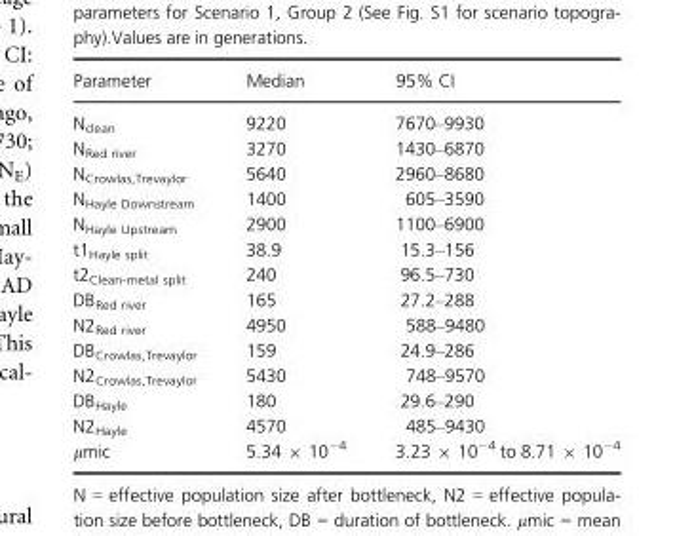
<table><thead><tr><td>Parameter</td><td>Median</td><td>95% CI</td></tr></thead><tbody><tr><td>N<sub>clean</sub></td><td>9220</td><td>7670–9930</td></tr><tr><td>N<sub>Red river</sub></td><td>3270</td><td>1430–6870</td></tr><tr><td>N<sub>Crowlas,Trevaylor</sub></td><td>5640</td><td>2960–8680</td></tr><tr><td>N<sub>Hayle Downstream</sub></td><td>1400</td><td>605–3590</td></tr><tr><td>N<sub>Hayle Upstream</sub></td><td>2900</td><td>1100–6900</td></tr><tr><td>t1<sub>Hayle split</sub></td><td>38.9</td><td>15.3–156</td></tr><tr><td>t2<sub>Clean-metal split</sub></td><td>240</td><td>96.5–730</td></tr><tr><td>DB<sub>Red river</sub></td><td>165</td><td>27.2–288</td></tr><tr><td>N2<sub>Red river</sub></td><td>4950</td><td>588–9480</td></tr><tr><td>DB<sub>Crowlas,Trevaylor</sub></td><td>159</td><td>24.9–286</td></tr><tr><td>N2<sub>Crowlas,Trevaylor</sub></td><td>5430</td><td>748–9570</td></tr><tr><td>DB<sub>Hayle</sub></td><td>180</td><td>29.6–290</td></tr><tr><td>N2<sub>Hayle</sub></td><td>4570</td><td>485–9430</td></tr><tr><td>μmic</td><td>5.34 × 10<sup>−4</sup></td><td>3.23 × 10<sup>−4</sup> to 8.71 × 10<sup>−4</sup></td></tr></tbody></table>